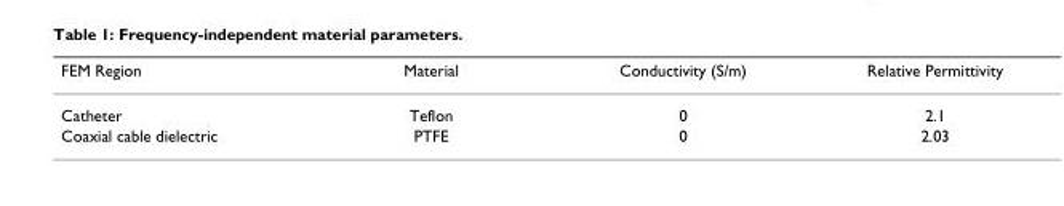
<table><thead><tr><td>FEM Region</td><td>Material</td><td>Conductivity (S/m)</td><td>Relative Permittivity</td></tr></thead><tbody><tr><td>Catheter</td><td>Teflon</td><td>0</td><td>2.1</td></tr><tr><td>Coaxial cable dielectric</td><td>PTFE</td><td>0</td><td>2.03</td></tr></tbody></table>